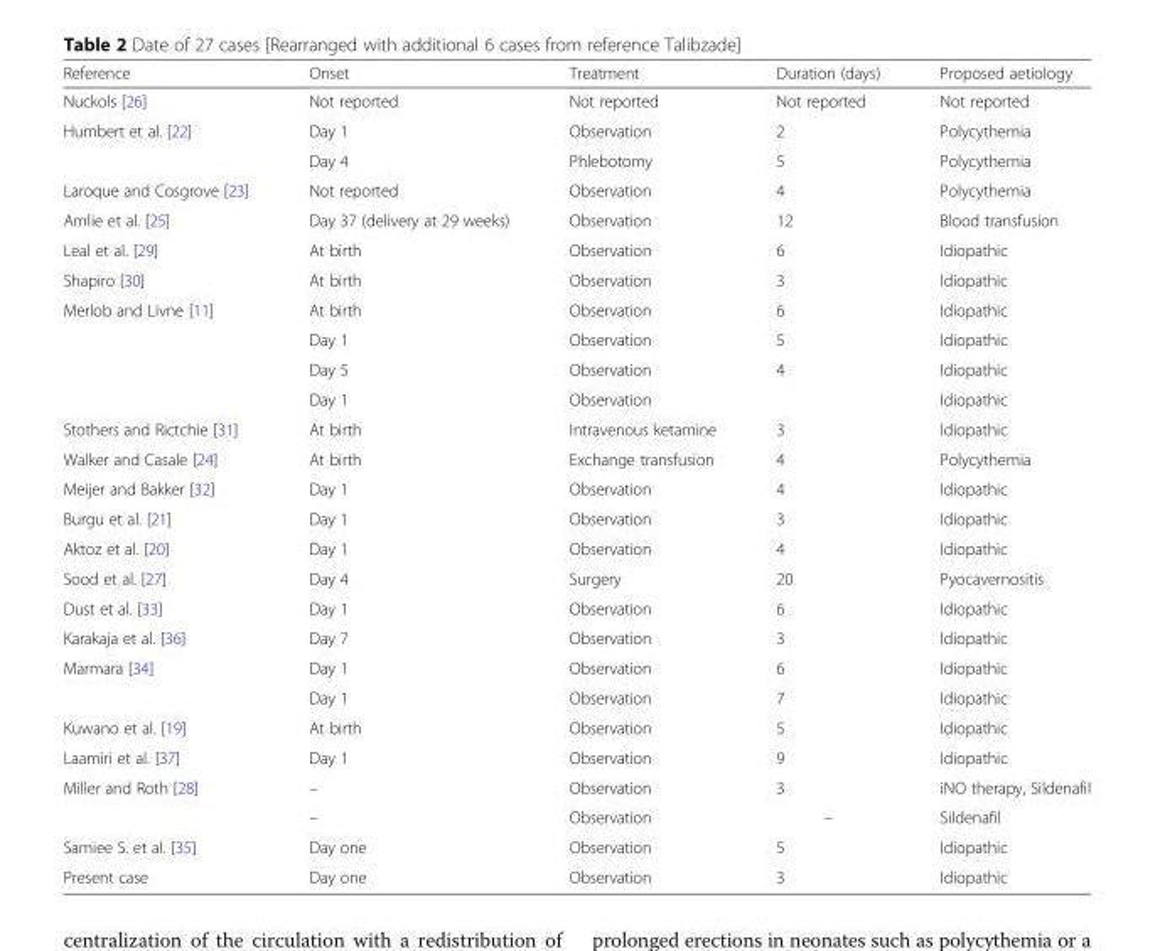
<table><thead><tr><td>Reference</td><td>Onset</td><td>Treatment</td><td>Duration (days)</td><td>Proposed aetiology</td></tr></thead><tbody><tr><td>Nuckols [26]</td><td>Not reported</td><td>Not reported</td><td>Not reported</td><td>Not reported</td></tr><tr><td rowspan="2">Humbert et al. [22]</td><td>Day 1</td><td>Observation</td><td>2</td><td>Polycythemia</td></tr><tr><td>Day 4</td><td>Phlebotomy</td><td>5</td><td>Polycythemia</td></tr><tr><td>Laroque and Cosgrove [23]</td><td>Not reported</td><td>Observation</td><td>4</td><td>Polycythemia</td></tr><tr><td>Amlie et al. [25]</td><td>Day 37 (delivery at 29 weeks)</td><td>Observation</td><td>12</td><td>Blood transfusion</td></tr><tr><td>Leal et al. [29]</td><td>At birth</td><td>Observation</td><td>6</td><td>Idiopathic</td></tr><tr><td>Shapiro [30]</td><td>At birth</td><td>Observation</td><td>3</td><td>Idiopathic</td></tr><tr><td rowspan="4">Merlob and Livne [11]</td><td>At birth</td><td>Observation</td><td>6</td><td>Idiopathic</td></tr><tr><td>Day 1</td><td>Observation</td><td>5</td><td>Idiopathic</td></tr><tr><td>Day 5</td><td>Observation</td><td>4</td><td>Idiopathic</td></tr><tr><td>Day 1</td><td>Observation</td><td></td><td>Idiopathic</td></tr><tr><td>Stothers and Rictchie [31]</td><td>At birth</td><td>Intravenous ketamine</td><td>3</td><td>Idiopathic</td></tr><tr><td>Walker and Casale [24]</td><td>At birth</td><td>Exchange transfusion</td><td>4</td><td>Polycythemia</td></tr><tr><td>Meijer and Bakker [32]</td><td>Day 1</td><td>Observation</td><td>4</td><td>Idiopathic</td></tr><tr><td>Burgu et al. [21]</td><td>Day 1</td><td>Observation</td><td>3</td><td>Idiopathic</td></tr><tr><td>Aktoz et al. [20]</td><td>Day 1</td><td>Observation</td><td>4</td><td>Idiopathic</td></tr><tr><td>Sood et al. [27]</td><td>Day 4</td><td>Surgery</td><td>20</td><td>Pyocavernositis</td></tr><tr><td>Dust et al. [33]</td><td>Day 1</td><td>Observation</td><td>6</td><td>Idiopathic</td></tr><tr><td>Karakaja et al. [36]</td><td>Day 7</td><td>Observation</td><td>3</td><td>Idiopathic</td></tr><tr><td rowspan="2">Marmara [34]</td><td>Day 1</td><td>Observation</td><td>6</td><td>Idiopathic</td></tr><tr><td>Day 1</td><td>Observation</td><td>7</td><td>Idiopathic</td></tr><tr><td>Kuwano et al. [19]</td><td>At birth</td><td>Observation</td><td>5</td><td>Idiopathic</td></tr><tr><td>Laamiri et al. [37]</td><td>Day 1</td><td>Observation</td><td>9</td><td>Idiopathic</td></tr><tr><td rowspan="2">Miller and Roth [28]</td><td>–</td><td>Observation</td><td>3</td><td>iNO therapy, Sildenafil</td></tr><tr><td>–</td><td>Observation</td><td>–</td><td>Sildenafil</td></tr><tr><td>Samiee S. et al. [35]</td><td>Day one</td><td>Observation</td><td>5</td><td>Idiopathic</td></tr><tr><td>Present case</td><td>Day one</td><td>Observation</td><td>3</td><td>Idiopathic</td></tr></tbody></table>